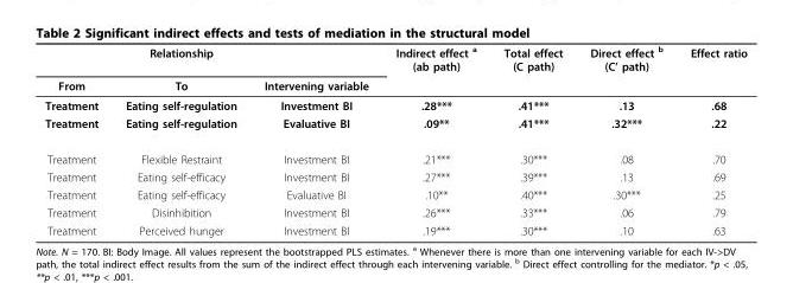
<table><thead><tr><td rowspan="2">From</td><td rowspan="2">Relationship To</td><td rowspan="2">Intervening variable</td><td rowspan="2">Indirect effect <sup>a</sup> (ab path)</td><td rowspan="2">Total effect (C path)</td><td rowspan="2">Direct effect <sup>b</sup> (C’ path)</td><td rowspan="2">Effect ratio</td></tr><tr></tr></thead><tbody><tr><td>Treatment</td><td>Eating self-regulation</td><td>Investment BI</td><td>.28***</td><td>.41***</td><td>.13</td><td>.68</td></tr><tr><td>Treatment</td><td>Eating self-regulation</td><td>Evaluative BI</td><td>.09**</td><td>.41***</td><td>.32***</td><td>.22</td></tr><tr><td>Treatment</td><td>Flexible Restraint</td><td>Investment BI</td><td>.21***</td><td>.30***</td><td>.08</td><td>.70</td></tr><tr><td>Treatment</td><td>Eating self-efficacy</td><td>Investment BI</td><td>.27***</td><td>.39***</td><td>.13</td><td>.69</td></tr><tr><td>Treatment</td><td>Eating self-efficacy</td><td>Evaluative BI</td><td>.10**</td><td>.40***</td><td>.30***</td><td>.25</td></tr><tr><td>Treatment</td><td>Disinhibition</td><td>Investment BI</td><td>.26***</td><td>.33***</td><td>.06</td><td>.79</td></tr><tr><td>Treatment</td><td>Perceived hunger</td><td>Investment BI</td><td>.19***</td><td>.30***</td><td>.10</td><td>.63</td></tr></tbody></table>